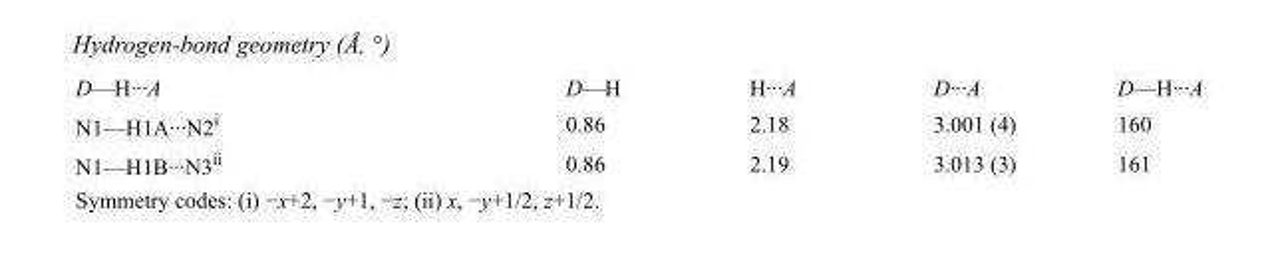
<table><tbody><tr><td>D—H···A</td><td>D—H</td><td>H···A</td><td>D···A</td><td>D—H···A</td></tr><tr><td>N1—H1A···N2<sup>i</sup></td><td>0.86</td><td>2.18</td><td>3.001 (4)</td><td>160</td></tr><tr><td>N1—H1B···N3<sup>ii</sup></td><td>0.86</td><td>2.19</td><td>3.013 (3)</td><td>161</td></tr></tbody></table>